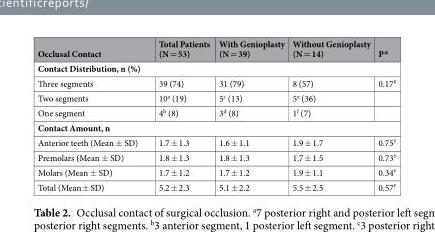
<table><thead><tr><td>Occlusal Contact</td><td>Total Patients (N = 53)</td><td>With Genioplasty (N = 39)</td><td>Without Genioplasty (N = 14)</td><td>P*</td></tr></thead><tbody><tr><td colspan="5">Contact Distribution, n (%)</td></tr><tr><td>Three segments</td><td>39 (74)</td><td>31 (79)</td><td>8 (57)</td><td>0.17<sup>‡</sup></td></tr><tr><td>Two segments</td><td>10<sup>a</sup> (19)</td><td>5<sup>c</sup> (13)</td><td>5<sup>e</sup> (36)</td><td></td></tr><tr><td>One segment</td><td>4<sup>b</sup> (8)</td><td>3<sup>d</sup> (8)</td><td>1<sup>f</sup> (7)</td><td></td></tr><tr><td colspan="5">Contact Amount, n</td></tr><tr><td>Anterior teeth (Mean ± SD)</td><td>1.7 ± 1.3</td><td>1.6 ± 1.1</td><td>1.9 ± 1.7</td><td>0.75<sup>†</sup></td></tr><tr><td>Premolars (Mean ± SD)</td><td>1.8 ± 1.3</td><td>1.8 ± 1.3</td><td>1.7 ± 1.5</td><td>0.73<sup>†</sup></td></tr><tr><td>Molars (Mean ± SD)</td><td>1.7 ± 1.2</td><td>1.7 ± 1.2</td><td>1.9 ± 1.1</td><td>0.34<sup>†</sup></td></tr><tr><td>Total (Mean ± SD)</td><td>5.2 ± 2.3</td><td>5.1 ± 2.2</td><td>5.5 ± 2.5</td><td>0.57<sup>†</sup></td></tr></tbody></table>